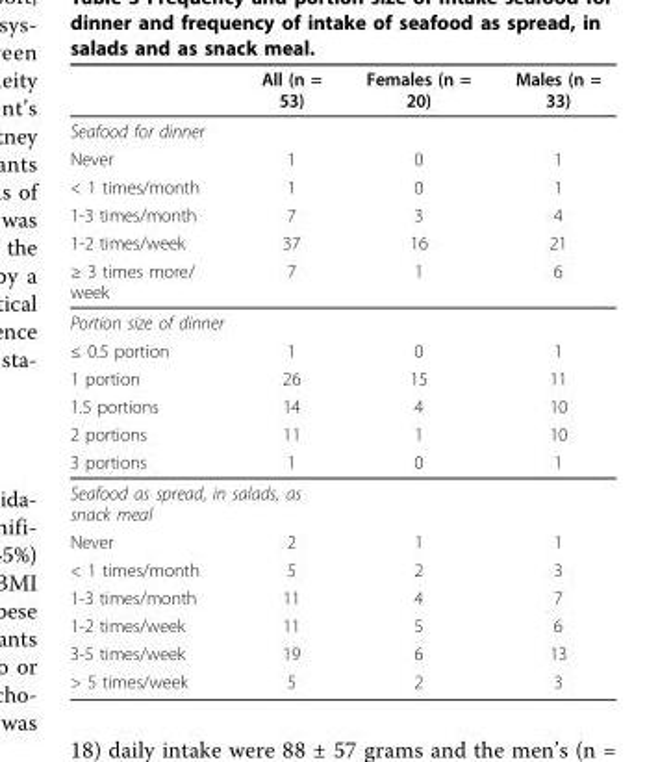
<table><thead><tr><td></td><td>All (n = 53)</td><td>Females (n = 20)</td><td>Males (n = 33)</td></tr></thead><tbody><tr><td colspan="4">Seafood for dinner</td></tr><tr><td>Never</td><td>1</td><td>0</td><td>1</td></tr><tr><td>&lt; 1 times/month</td><td>1</td><td>0</td><td>1</td></tr><tr><td>1-3 times/month</td><td>7</td><td>3</td><td>4</td></tr><tr><td>1-2 times/week</td><td>37</td><td>16</td><td>21</td></tr><tr><td>≥ 3 times more/ week</td><td>7</td><td>1</td><td>6</td></tr><tr><td colspan="4">Portion size of dinner</td></tr><tr><td>≤ 0.5 portion</td><td>1</td><td>0</td><td>1</td></tr><tr><td>1 portion</td><td>26</td><td>15</td><td>11</td></tr><tr><td>1.5 portions</td><td>14</td><td>4</td><td>10</td></tr><tr><td>2 portions</td><td>11</td><td>1</td><td>10</td></tr><tr><td>3 portions</td><td>1</td><td>0</td><td>1</td></tr><tr><td colspan="4">Seafood as spread, in salads, as snack meal</td></tr><tr><td>Never</td><td>2</td><td>1</td><td>1</td></tr><tr><td>&lt; 1 times/month</td><td>5</td><td>2</td><td>3</td></tr><tr><td>1-3 times/month</td><td>11</td><td>4</td><td>7</td></tr><tr><td>1-2 times/week</td><td>11</td><td>5</td><td>6</td></tr><tr><td>3-5 times/week</td><td>19</td><td>6</td><td>13</td></tr><tr><td>&gt; 5 times/week</td><td>5</td><td>2</td><td>3</td></tr></tbody></table>